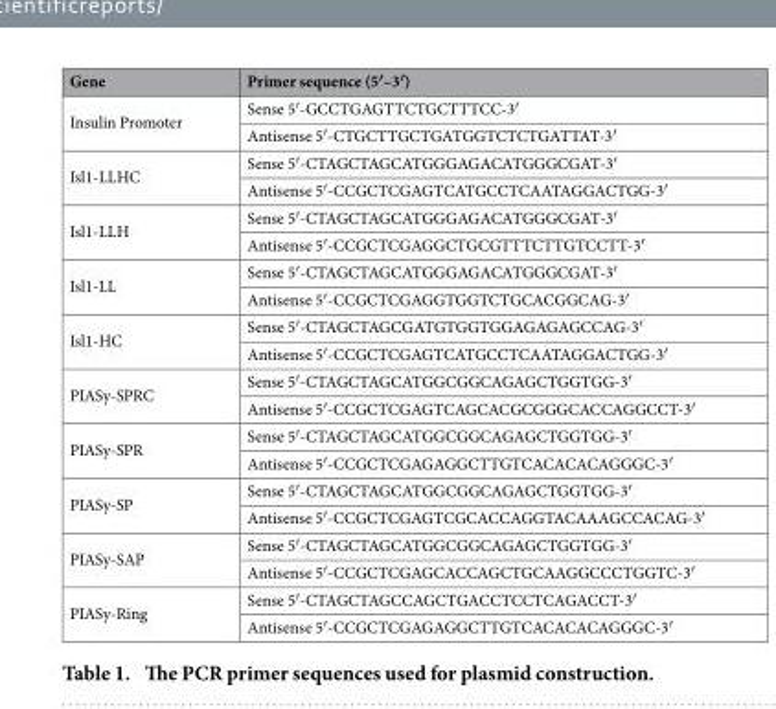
<table><thead><tr><td>Gene</td><td>Primer sequence (5′–3′)</td></tr></thead><tbody><tr><td rowspan="2">Insulin Promoter</td><td>Sense 5′ -GCCTGAGTTCTGCTTTCC-3′</td></tr><tr><td>Antisense 5′ -CTGCTTGCTGATGGTCTCTGATTAT-3′</td></tr><tr><td rowspan="2">Isl1-LLHC</td><td>Sense 5′ -CTAGCTAGCATGGGAGACATGGGCGAT-3′</td></tr><tr><td>Antisense 5′ -CCGCTCGAGTCATGCCTCAATAGGACTGG-3′</td></tr><tr><td rowspan="2">Isl1-LLH</td><td>Sense 5′ -CTAGCTAGCATGGGAGACATGGGCGAT-3′</td></tr><tr><td>Antisense 5′ -CCGCTCGAGGCTGCGTTTCTTGTCCTT-3′</td></tr><tr><td rowspan="2">Isl1-LL</td><td>Sense 5′ -CTAGCTAGCATGGGAGACATGGGCGAT-3′</td></tr><tr><td>Antisense 5′ -CCGCTCGAGGTGGTCTGCACGGCAG-3′</td></tr><tr><td rowspan="2">Isl1-HC</td><td>Sense 5′ -CTAGCTAGCGATGTGGTGGAGAGAGCCAG-3′</td></tr><tr><td>Antisense 5′ -CCGCTCGAGTCATGCCTCAATAGGACTGG-3′</td></tr><tr><td rowspan="2">PIASy-SPRC</td><td>Sense 5′ -CTAGCTAGCATGGCGGCAGAGCTGGTGG-3′</td></tr><tr><td>Antisense 5′ -CCGCTCGAGTCAGCACGCGGGCACCAGGCCT-3′</td></tr><tr><td rowspan="2">PIASy-SPR</td><td>Sense 5′ -CTAGCTAGCATGGCGGCAGAGCTGGTGG-3′</td></tr><tr><td>Antisense 5′ -CCGCTCGAGAGGCTTGTCACACACAGGGC-3′</td></tr><tr><td rowspan="2">PIASy-SP</td><td>Sense 5′ -CTAGCTAGCATGGCGGCAGAGCTGGTGG-3′</td></tr><tr><td>Antisense 5′ -CCGCTCGAGTCGCACCAGGTACAAAGCCACAG-3′</td></tr><tr><td rowspan="2">PIASy-SAP</td><td>Sense 5′ -CTAGCTAGCATGGCGGCAGAGCTGGTGG-3′</td></tr><tr><td>Antisense 5′ -CCGCTCGAGCACCAGCTGCAAGGCCCTGGTC-3′</td></tr><tr><td rowspan="2">PIASy-Ring</td><td>Sense 5′ -CTAGCTAGCCAGCTGACCTCCTCAGACCT-3′</td></tr><tr><td>Antisense 5′ -CCGCTCGAGAGGCTTGTCACACACAGGGC-3′</td></tr></tbody></table>